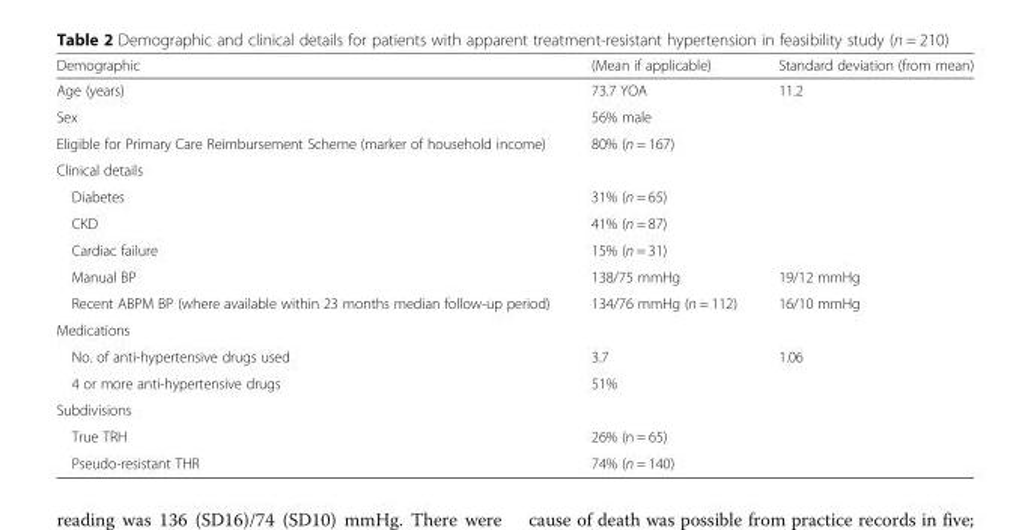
<table><thead><tr><td>Demographic</td><td>(Mean if applicable)</td><td>Standard deviation (from mean)</td></tr></thead><tbody><tr><td>Age (years)</td><td>73.7 YOA</td><td>11.2</td></tr><tr><td>Sex</td><td>56% male</td><td></td></tr><tr><td>Eligible for Primary Care Reimbursement Scheme (marker of household income)</td><td>80% (n = 167)</td><td></td></tr><tr><td colspan="3">Clinical details</td></tr><tr><td>Diabetes</td><td>31% (n = 65)</td><td></td></tr><tr><td>CKD</td><td>41% (n = 87)</td><td></td></tr><tr><td>Cardiac failure</td><td>15% (n = 31)</td><td></td></tr><tr><td>Manual BP</td><td>138/75 mmHg</td><td>19/12 mmHg</td></tr><tr><td>Recent ABPM BP (where available within 23 months median follow-up period)</td><td>134/76 mmHg (n = 112)</td><td>16/10 mmHg</td></tr><tr><td colspan="3">Medications</td></tr><tr><td>No. of anti-hypertensive drugs used</td><td>3.7</td><td>1.06</td></tr><tr><td>4 or more anti-hypertensive drugs</td><td>51%</td><td></td></tr><tr><td colspan="3">Subdivisions</td></tr><tr><td>True TRH</td><td>26% (n = 65)</td><td></td></tr><tr><td>Pseudo-resistant THR</td><td>74% (n = 140)</td><td></td></tr></tbody></table>